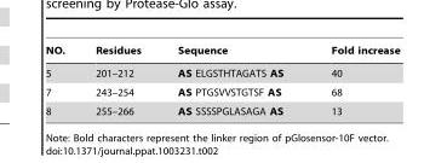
<table><thead><tr><td>NO.</td><td>Residues</td><td>Sequence</td><td>Fold increase</td></tr></thead><tbody><tr><td>5</td><td>201–212</td><td>AS ELGSTHTAGATS AS</td><td>40</td></tr><tr><td>7</td><td>243–254</td><td>AS PTGSVVSTGTSF AS</td><td>68</td></tr><tr><td>8</td><td>255–266</td><td>AS SSSSPGLASAGA AS</td><td>13</td></tr></tbody></table>